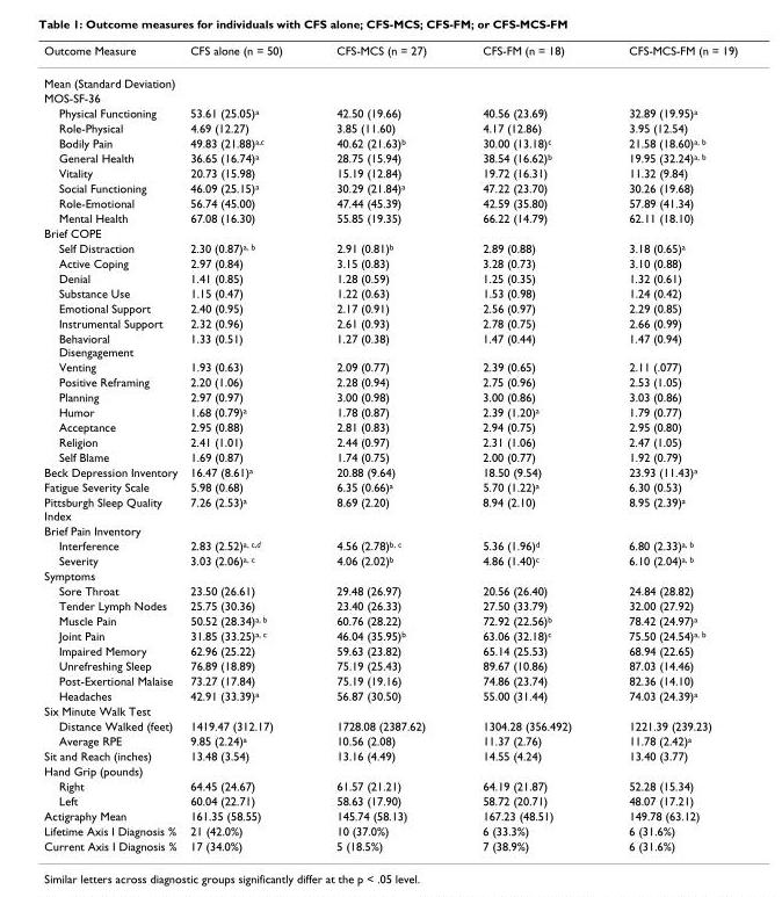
<table><thead><tr><td>Outcome Measure</td><td>CFS alone (n = 50)</td><td>CFS-MCS (n = 27)</td><td>CFS-FM (n = 18)</td><td>CFS-MCS-FM (n = 19)</td></tr></thead><tbody><tr><td colspan="5">Mean (Standard Deviation)</td></tr><tr><td colspan="5">MOS-SF-36</td></tr><tr><td>Physical Functioning</td><td>53.61 (25.05)<sup>a</sup></td><td>42.50 (19.66)</td><td>40.56 (23.69)</td><td>32.89 (19.95)<sup>a</sup></td></tr><tr><td>Role-Physical</td><td>4.69 (12.27)</td><td>3.85 (11.60)</td><td>4.17 (12.86)</td><td>3.95 (12.54)</td></tr><tr><td>Bodily Pain</td><td>49.83 (21.88)<sup>a,c</sup></td><td>40.62 (21.63)<sup>b</sup></td><td>30.00 (13.18)<sup>c</sup></td><td>21.58 (18.60)<sup>a, b</sup></td></tr><tr><td>General Health</td><td>36.65 (16.74)<sup>a</sup></td><td>28.75 (15.94)</td><td>38.54 (16.62)<sup>b</sup></td><td>19.95 (32.24)<sup>a, b</sup></td></tr><tr><td>Vitality</td><td>20.73 (15.98)</td><td>15.19 (12.84)</td><td>19.72 (16.31)</td><td>11.32 (9.84)</td></tr><tr><td>Social Functioning</td><td>46.09 (25.15)<sup>a</sup></td><td>30.29 (21.84)<sup>a</sup></td><td>47.22 (23.70)</td><td>30.26 (19.68)</td></tr><tr><td>Role-Emotional</td><td>56.74 (45.00)</td><td>47.44 (45.39)</td><td>42.59 (35.80)</td><td>57.89 (41.34)</td></tr><tr><td>Mental Health</td><td>67.08 (16.30)</td><td>55.85 (19.35)</td><td>66.22 (14.79)</td><td>62.11 (18.10)</td></tr><tr><td colspan="5">Brief COPE</td></tr><tr><td>Self Distraction</td><td>2.30 (0.87)<sup>a, b</sup></td><td>2.91 (0.81)<sup>b</sup></td><td>2.89 (0.88)</td><td>3.18 (0.65)<sup>a</sup></td></tr><tr><td>Active Coping</td><td>2.97 (0.84)</td><td>3.15 (0.83)</td><td>3.28 (0.73)</td><td>3.10 (0.88)</td></tr><tr><td>Denial</td><td>1.41 (0.85)</td><td>1.28 (0.59)</td><td>1.25 (0.35)</td><td>1.32 (0.61)</td></tr><tr><td>Substance Use</td><td>1.15 (0.47)</td><td>1.22 (0.63)</td><td>1.53 (0.98)</td><td>1.24 (0.42)</td></tr><tr><td>Emotional Support</td><td>2.40 (0.95)</td><td>2.17 (0.91)</td><td>2.56 (0.97)</td><td>2.29 (0.85)</td></tr><tr><td>Instrumental Support</td><td>2.32 (0.96)</td><td>2.61 (0.93)</td><td>2.78 (0.75)</td><td>2.66 (0.99)</td></tr><tr><td>Behavioral Disengagement</td><td>1.33 (0.51)</td><td>1.27 (0.38)</td><td>1.47 (0.44)</td><td>1.47 (0.94)</td></tr><tr><td>Venting</td><td>1.93 (0.63)</td><td>2.09 (0.77)</td><td>2.39 (0.65)</td><td>2.11 (.077)</td></tr><tr><td>Positive Reframing</td><td>2.20 (1.06)</td><td>2.28 (0.94)</td><td>2.75 (0.96)</td><td>2.53 (1.05)</td></tr><tr><td>Planning</td><td>2.97 (0.97)</td><td>3.00 (0.98)</td><td>3.00 (0.86)</td><td>3.03 (0.86)</td></tr><tr><td>Humor</td><td>1.68 (0.79)<sup>a</sup></td><td>1.78 (0.87)</td><td>2.39 (1.20)<sup>a</sup></td><td>1.79 (0.77)</td></tr><tr><td>Acceptance</td><td>2.95 (0.88)</td><td>2.81 (0.83)</td><td>2.94 (0.75)</td><td>2.95 (0.80)</td></tr><tr><td>Religion</td><td>2.41 (1.01)</td><td>2.44 (0.97)</td><td>2.31 (1.06)</td><td>2.47 (1.05)</td></tr><tr><td>Self Blame</td><td>1.69 (0.87)</td><td>1.74 (0.75)</td><td>2.00 (0.77)</td><td>1.92 (0.79)</td></tr><tr><td>Beck Depression Inventory</td><td>16.47 (8.61)<sup>a</sup></td><td>20.88 (9.64)</td><td>18.50 (9.54)</td><td>23.93 (11.43)<sup>a</sup></td></tr><tr><td>Fatigue Severity Scale</td><td>5.98 (0.68)</td><td>6.35 (0.66)<sup>a</sup></td><td>5.70 (1.22)<sup>a</sup></td><td>6.30 (0.53)</td></tr><tr><td>Pittsburgh Sleep Quality Index</td><td>7.26 (2.53)<sup>a</sup></td><td>8.69 (2.20)</td><td>8.94 (2.10)</td><td>8.95 (2.39)<sup>a</sup></td></tr><tr><td colspan="5">Brief Pain Inventory</td></tr><tr><td>Interference</td><td>2.83 (2.52)<sup>a, c,d</sup></td><td>4.56 (2.78)<sup>b, c</sup></td><td>5.36 (1.96)<sup>d</sup></td><td>6.80 (2.33)<sup>a, b</sup></td></tr><tr><td>Severity</td><td>3.03 (2.06)<sup>a, c</sup></td><td>4.06 (2.02)<sup>b</sup></td><td>4.86 (1.40)<sup>c</sup></td><td>6.10 (2.04)<sup>a, b</sup></td></tr><tr><td colspan="5">Symptoms</td></tr><tr><td>Sore Throat</td><td>23.50 (26.61)</td><td>29.48 (26.97)</td><td>20.56 (26.40)</td><td>24.84 (28.82)</td></tr><tr><td>Tender Lymph Nodes</td><td>25.75 (30.36)</td><td>23.40 (26.33)</td><td>27.50 (33.79)</td><td>32.00 (27.92)</td></tr><tr><td>Muscle Pain</td><td>50.52 (28.34)<sup>a, b</sup></td><td>60.76 (28.22)</td><td>72.92 (22.56)<sup>b</sup></td><td>78.42 (24.97)<sup>a</sup></td></tr><tr><td>Joint Pain</td><td>31.85 (33.25)<sup>a, c</sup></td><td>46.04 (35.95)<sup>b</sup></td><td>63.06 (32.18)<sup>c</sup></td><td>75.50 (24.54)<sup>a, b</sup></td></tr><tr><td>Impaired Memory</td><td>62.96 (25.22)</td><td>59.63 (23.82)</td><td>65.14 (25.53)</td><td>68.94 (22.65)</td></tr><tr><td>Unrefreshing Sleep</td><td>76.89 (18.89)</td><td>75.19 (25.43)</td><td>89.67 (10.86)</td><td>87.03 (14.46)</td></tr><tr><td>Post-Exertional Malaise</td><td>73.27 (17.84)</td><td>75.19 (19.16)</td><td>74.86 (23.74)</td><td>82.36 (14.10)</td></tr><tr><td>Headaches</td><td>42.91 (33.39)<sup>a</sup></td><td>56.87 (30.50)</td><td>55.00 (31.44)</td><td>74.03 (24.39)<sup>a</sup></td></tr><tr><td colspan="5">Six Minute Walk Test</td></tr><tr><td>Distance Walked (feet)</td><td>1419.47 (312.17)</td><td>1728.08 (2387.62)</td><td>1304.28 (356.492)</td><td>1221.39 (239.23)</td></tr><tr><td>Average RPE</td><td>9.85 (2.24)<sup>a</sup></td><td>10.56 (2.08)</td><td>11.37 (2.76)</td><td>11.78 (2.42)<sup>a</sup></td></tr><tr><td>Sit and Reach (inches)</td><td>13.48 (3.54)</td><td>13.16 (4.49)</td><td>14.55 (4.24)</td><td>13.40 (3.77)</td></tr><tr><td colspan="5">Hand Grip (pounds)</td></tr><tr><td>Right</td><td>64.45 (24.67)</td><td>61.57 (21.21)</td><td>64.19 (21.87)</td><td>52.28 (15.34)</td></tr><tr><td>Left</td><td>60.04 (22.71)</td><td>58.63 (17.90)</td><td>58.72 (20.71)</td><td>48.07 (17.21)</td></tr><tr><td>Actigraphy Mean</td><td>161.35 (58.55)</td><td>145.74 (58.13)</td><td>167.23 (48.51)</td><td>149.78 (63.12)</td></tr><tr><td>Lifetime Axis I Diagnosis %</td><td>21 (42.0%)</td><td>10 (37.0%)</td><td>6 (33.3%)</td><td>6 (31.6%)</td></tr><tr><td>Current Axis I Diagnosis %</td><td>17 (34.0%)</td><td>5 (18.5%)</td><td>7 (38.9%)</td><td>6 (31.6%)</td></tr></tbody></table>